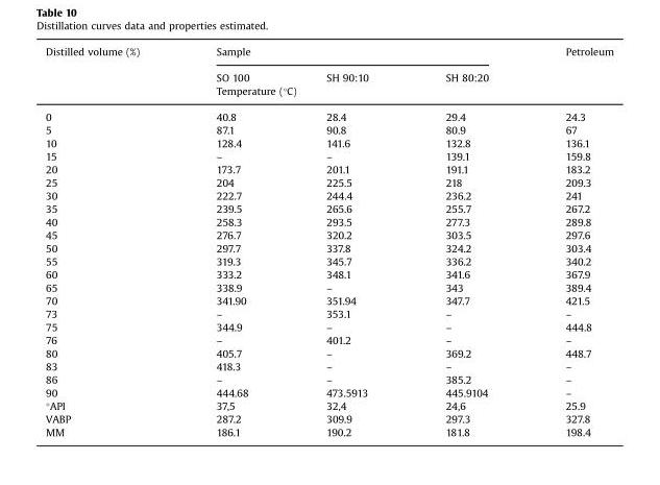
<table><thead><tr><td rowspan="3">Distilled volume (%)</td><td colspan="3">Sample</td><td rowspan="3">Petroleum</td></tr><tr><td>SO 100</td><td>SH 90:10</td><td>SH 80:20</td></tr><tr><td colspan="3">Temperature (°C)</td></tr></thead><tbody><tr><td>0</td><td>40.8</td><td>28.4</td><td>29.4</td><td>24.3</td></tr><tr><td>5</td><td>87.1</td><td>90.8</td><td>80.9</td><td>67</td></tr><tr><td>10</td><td>128.4</td><td>141.6</td><td>132.8</td><td>136.1</td></tr><tr><td>15</td><td>–</td><td>–</td><td>139.1</td><td>159.8</td></tr><tr><td>20</td><td>173.7</td><td>201.1</td><td>191.1</td><td>183.2</td></tr><tr><td>25</td><td>204</td><td>225.5</td><td>218</td><td>209.3</td></tr><tr><td>30</td><td>222.7</td><td>244.4</td><td>236.2</td><td>241</td></tr><tr><td>35</td><td>239.5</td><td>265.6</td><td>255.7</td><td>267.2</td></tr><tr><td>40</td><td>258.3</td><td>293.5</td><td>277.3</td><td>289.8</td></tr><tr><td>45</td><td>276.7</td><td>320.2</td><td>303.5</td><td>297.6</td></tr><tr><td>50</td><td>297.7</td><td>337.8</td><td>324.2</td><td>303.4</td></tr><tr><td>55</td><td>319.3</td><td>345.7</td><td>336.2</td><td>340.2</td></tr><tr><td>60</td><td>333.2</td><td>348.1</td><td>341.6</td><td>367.9</td></tr><tr><td>65</td><td>338.9</td><td>–</td><td>343</td><td>389.4</td></tr><tr><td>70</td><td>341.90</td><td>351.94</td><td>347.7</td><td>421.5</td></tr><tr><td>73</td><td>–</td><td>353.1</td><td>–</td><td>–</td></tr><tr><td>75</td><td>344.9</td><td>–</td><td>–</td><td>444.8</td></tr><tr><td>76</td><td>–</td><td>401.2</td><td>–</td><td>–</td></tr><tr><td>80</td><td>405.7</td><td>–</td><td>369.2</td><td>448.7</td></tr><tr><td>83</td><td>418.3</td><td>–</td><td>–</td><td>–</td></tr><tr><td>86</td><td>–</td><td>–</td><td>385.2</td><td>–</td></tr><tr><td>90</td><td>444.68</td><td>473.5913</td><td>445.9104</td><td>–</td></tr><tr><td>°API</td><td>37,5</td><td>32,4</td><td>24,6</td><td>25.9</td></tr><tr><td>VABP</td><td>287.2</td><td>309.9</td><td>297.3</td><td>327.8</td></tr><tr><td>MM</td><td>186.1</td><td>190.2</td><td>181.8</td><td>198.4</td></tr></tbody></table>